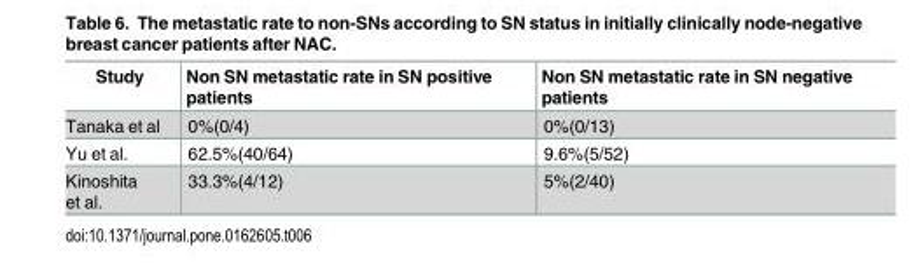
<table><thead><tr><td>Study</td><td>Non SN metastatic rate in SN positive patients</td><td>Non SN metastatic rate in SN negative patients</td></tr></thead><tbody><tr><td>Tanaka et al</td><td>0%(0/4)</td><td>0%(0/13)</td></tr><tr><td>Yu et al.</td><td>62.5%(40/64)</td><td>9.6%(5/52)</td></tr><tr><td>Kinoshita et al.</td><td>33.3%(4/12)</td><td>5%(2/40)</td></tr></tbody></table>